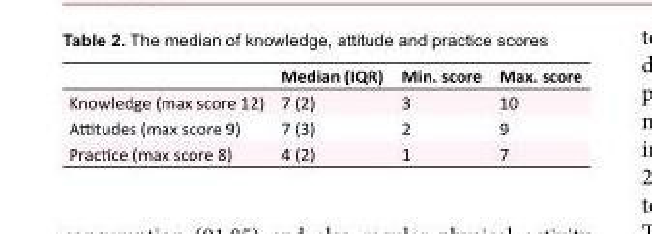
<table><thead><tr><td></td><td>Median (IQR)</td><td>Min. score</td><td>Max. score</td></tr></thead><tbody><tr><td>Knowledge (max score 12)</td><td>7 (2)</td><td>3</td><td>10</td></tr><tr><td>Attitudes (max score 9)</td><td>7 (3)</td><td>2</td><td>9</td></tr><tr><td>Practice (max score 8)</td><td>4 (2)</td><td>1</td><td>7</td></tr></tbody></table>